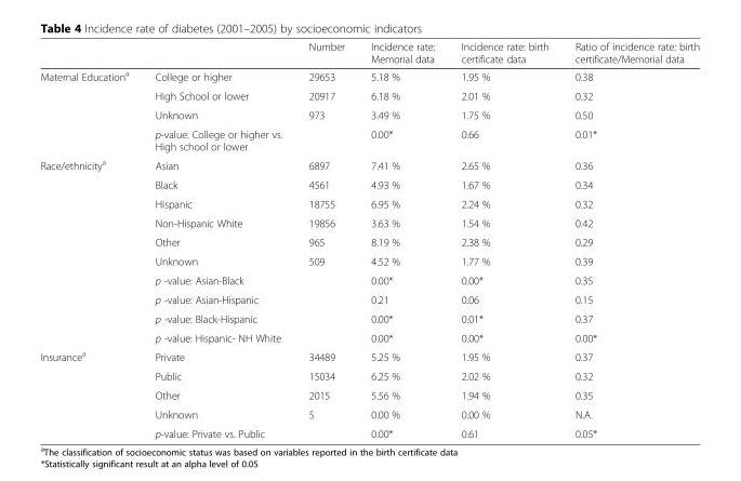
<table><thead><tr><td></td><td></td><td>Number</td><td>Incidence rate: Memorial data</td><td>Incidence rate: birth certificate data</td><td>Ratio of incidence rate: birth certificate/Memorial data</td></tr></thead><tbody><tr><td rowspan="4">Maternal Education<sup>a</sup></td><td>College or higher</td><td>29653</td><td>5.18 %</td><td>1.95 %</td><td>0.38</td></tr><tr><td>High School or lower</td><td>20917</td><td>6.18 %</td><td>2.01 %</td><td>0.32</td></tr><tr><td>Unknown</td><td>973</td><td>3.49 %</td><td>1.75 %</td><td>0.50</td></tr><tr><td>p-value: College or higher vs. High school or lower</td><td></td><td>0.00*</td><td>0.66</td><td>0.01*</td></tr><tr><td rowspan="10">Race/ethnicity<sup>a</sup></td><td>Asian</td><td>6897</td><td>7.41 %</td><td>2.65 %</td><td>0.36</td></tr><tr><td>Black</td><td>4561</td><td>4.93 %</td><td>1.67 %</td><td>0.34</td></tr><tr><td>Hispanic</td><td>18755</td><td>6.95 %</td><td>2.24 %</td><td>0.32</td></tr><tr><td>Non-Hispanic White</td><td>19856</td><td>3.63 %</td><td>1.54 %</td><td>0.42</td></tr><tr><td>Other</td><td>965</td><td>8.19 %</td><td>2.38 %</td><td>0.29</td></tr><tr><td>Unknown</td><td>509</td><td>4.52 %</td><td>1.77 %</td><td>0.39</td></tr><tr><td>p -value: Asian-Black</td><td></td><td>0.00*</td><td>0.00*</td><td>0.35</td></tr><tr><td>p -value: Asian-Hispanic</td><td></td><td>0.21</td><td>0.06</td><td>0.15</td></tr><tr><td>p -value: Black-Hispanic</td><td></td><td>0.00*</td><td>0.01*</td><td>0.37</td></tr><tr><td>p -value: Hispanic- NH White</td><td></td><td>0.00*</td><td>0.00*</td><td>0.00*</td></tr><tr><td rowspan="5">Insurance<sup>a</sup></td><td>Private</td><td>34489</td><td>5.25 %</td><td>1.95 %</td><td>0.37</td></tr><tr><td>Public</td><td>15034</td><td>6.25 %</td><td>2.02 %</td><td>0.32</td></tr><tr><td>Other</td><td>2015</td><td>5.56 %</td><td>1.94 %</td><td>0.35</td></tr><tr><td>Unknown</td><td>5</td><td>0.00 %</td><td>0.00 %</td><td>N.A.</td></tr><tr><td>p-value: Private vs. Public</td><td></td><td>0.00*</td><td>0.61</td><td>0.05*</td></tr></tbody></table>